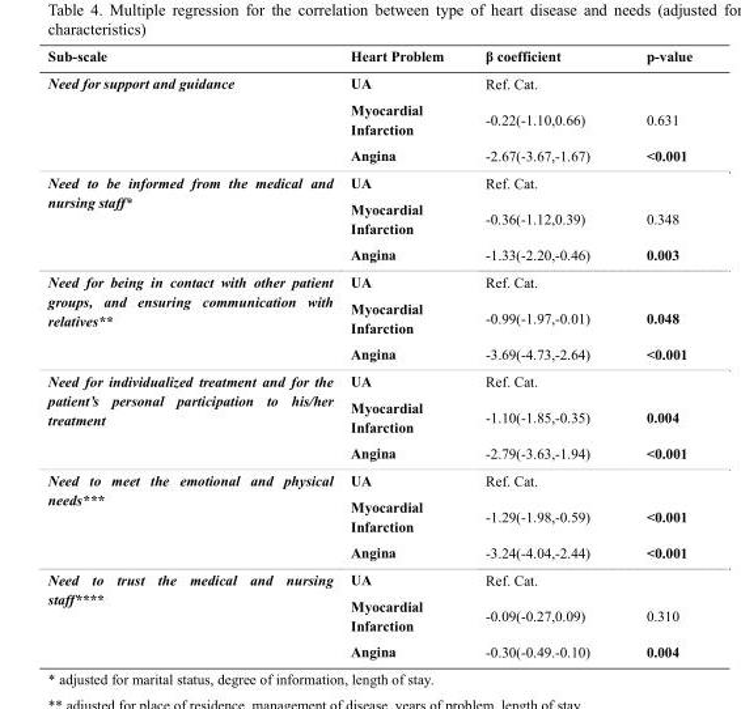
<table><thead><tr><td>Sub-scale</td><td>Heart Problem</td><td>β coefficient</td><td>p-value</td></tr></thead><tbody><tr><td rowspan="3">Need for support and guidance</td><td>UA</td><td>Ref. Cat.</td><td></td></tr><tr><td>Myocardial Infarction</td><td>-0.22(-1.10,0.66)</td><td>0.631</td></tr><tr><td>Angina</td><td>-2.67(-3.67,-1.67)</td><td>&lt;0.001</td></tr><tr><td rowspan="3">Need to be informed from the medical and nursing staff*</td><td>UA</td><td>Ref. Cat.</td><td></td></tr><tr><td>Myocardial Infarction</td><td>-0.36(-1.12,0.39)</td><td>0.348</td></tr><tr><td>Angina</td><td>-1.33(-2.20,-0.46)</td><td>0.003</td></tr><tr><td rowspan="3">Need for being in contact with other patient groups, and ensuring communication with relatives**</td><td>UA</td><td>Ref. Cat.</td><td></td></tr><tr><td>Myocardial Infarction</td><td>-0.99(-1.97,-0.01)</td><td>0.048</td></tr><tr><td>Angina</td><td>-3.69(-4.73,-2.64)</td><td>&lt;0.001</td></tr><tr><td rowspan="3">Need for individualized treatment and for the patient’s personal participation to his/her treatment</td><td>UA</td><td>Ref. Cat.</td><td></td></tr><tr><td>Myocardial Infarction</td><td>-1.10(-1.85,-0.35)</td><td>0.004</td></tr><tr><td>Angina</td><td>-2.79(-3.63,-1.94)</td><td>&lt;0.001</td></tr><tr><td rowspan="3">Need to meet the emotional and physical needs***</td><td>UA</td><td>Ref. Cat.</td><td></td></tr><tr><td>Myocardial Infarction</td><td>-1.29(-1.98,-0.59)</td><td>&lt;0.001</td></tr><tr><td>Angina</td><td>-3.24(-4.04,-2.44)</td><td>&lt;0.001</td></tr><tr><td rowspan="3">Need to trust the medical and nursing staff****</td><td>UA</td><td>Ref. Cat.</td><td></td></tr><tr><td>Myocardial Infarction</td><td>-0.09(-0.27,0.09)</td><td>0.310</td></tr><tr><td>Angina</td><td>-0.30(-0.49.-0.10)</td><td>0.004</td></tr></tbody></table>